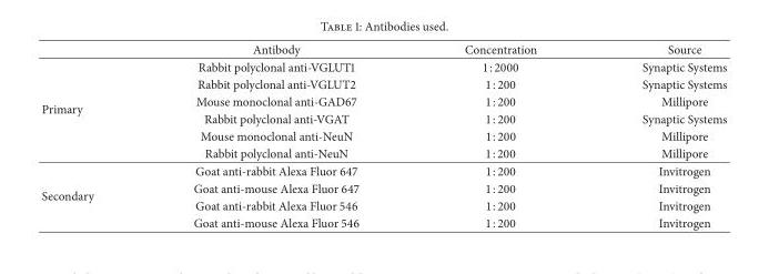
<table><thead><tr><td></td><td>Antibody</td><td>Concentration</td><td>Source</td></tr></thead><tbody><tr><td rowspan="6">Primary</td><td>Rabbit polyclonal anti-VGLUT1</td><td>1 : 2000</td><td>Synaptic Systems</td></tr><tr><td>Rabbit polyclonal anti-VGLUT2</td><td>1 : 200</td><td>Synaptic Systems</td></tr><tr><td>Mouse monoclonal anti-GAD67</td><td>1 : 200</td><td>Millipore</td></tr><tr><td>Rabbit polyclonal anti-VGAT</td><td>1 : 200</td><td>Synaptic Systems</td></tr><tr><td>Mouse monoclonal anti-NeuN</td><td>1 : 200</td><td>Millipore</td></tr><tr><td>Rabbit polyclonal anti-NeuN</td><td>1 : 200</td><td>Millipore</td></tr><tr><td rowspan="4">Secondary</td><td>Goat anti-rabbit Alexa Fluor 647</td><td>1 : 200</td><td>Invitrogen</td></tr><tr><td>Goat anti-mouse Alexa Fluor 647</td><td>1 : 200</td><td>Invitrogen</td></tr><tr><td>Goat anti-rabbit Alexa Fluor 546</td><td>1 : 200</td><td>Invitrogen</td></tr><tr><td>Goat anti-mouse Alexa Fluor 546</td><td>1 : 200</td><td>Invitrogen</td></tr></tbody></table>